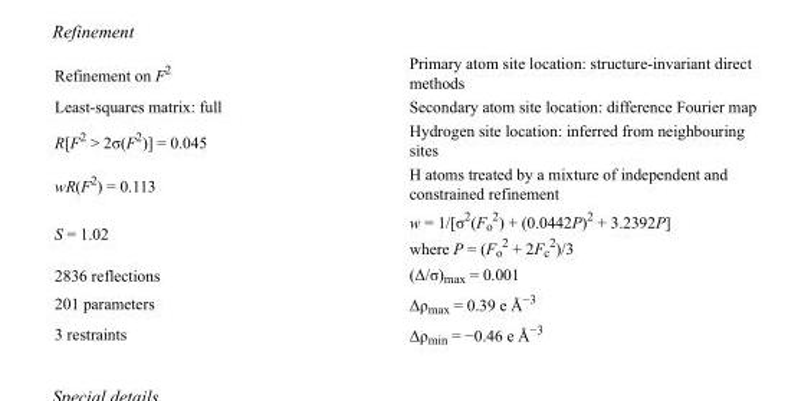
<table><tbody><tr><td>Refinement on F<sup>2</sup></td><td>Primary atom site location: structure-invariant direct methods</td></tr><tr><td>Least-squares matrix: full</td><td>Secondary atom site location: difference Fourier map</td></tr><tr><td>R[F<sup>2</sup> &gt; 2σ(F<sup>2</sup>)] = 0.045</td><td>Hydrogen site location: inferred from neighbouring sites</td></tr><tr><td>wR(F<sup>2</sup>) = 0.113</td><td>H atoms treated by a mixture of independent and constrained refinement</td></tr><tr><td>S = 1.02</td><td>w = 1/[σ<sup>2</sup>(F<sub>o</sub> <sup>2</sup>) + (0.0442P)<sup>2</sup> + 3.2392P] where P = (F<sub>o</sub> <sup>2</sup> + 2F<sub>c</sub> <sup>2</sup>)/3</td></tr><tr><td>2836 reflections</td><td>(Δ/σ)<sub>max</sub> = 0.001</td></tr><tr><td>201 parameters</td><td>Δρ<sub>max</sub> = 0.39 e Å<sup>−3</sup></td></tr><tr><td>3 restraints</td><td>Δρ<sub>min</sub> = −0.46 e Å<sup>−3</sup></td></tr></tbody></table>